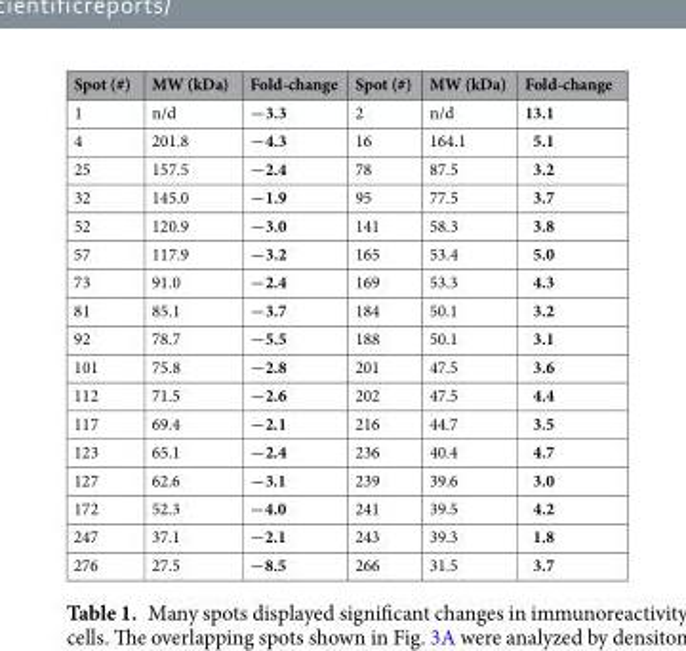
<table><thead><tr><td>Spot (#)</td><td>MW (kDa)</td><td>Fold-change</td><td>Spot (#)</td><td>MW (kDa)</td><td>Fold-change</td></tr></thead><tbody><tr><td>1</td><td>n/d</td><td>−3.3</td><td>2</td><td>n/d</td><td>13.1</td></tr><tr><td>4</td><td>201.8</td><td>−4.3</td><td>16</td><td>164.1</td><td>5.1</td></tr><tr><td>25</td><td>157.5</td><td>−2.4</td><td>78</td><td>87.5</td><td>3.2</td></tr><tr><td>32</td><td>145.0</td><td>−1.9</td><td>95</td><td>77.5</td><td>3.7</td></tr><tr><td>52</td><td>120.9</td><td>−3.0</td><td>141</td><td>58.3</td><td>3.8</td></tr><tr><td>57</td><td>117.9</td><td>−3.2</td><td>165</td><td>53.4</td><td>5.0</td></tr><tr><td>73</td><td>91.0</td><td>−2.4</td><td>169</td><td>53.3</td><td>4.3</td></tr><tr><td>81</td><td>85.1</td><td>−3.7</td><td>184</td><td>50.1</td><td>3.2</td></tr><tr><td>92</td><td>78.7</td><td>−5.5</td><td>188</td><td>50.1</td><td>3.1</td></tr><tr><td>101</td><td>75.8</td><td>−2.8</td><td>201</td><td>47.5</td><td>3.6</td></tr><tr><td>112</td><td>71.5</td><td>−2.6</td><td>202</td><td>47.5</td><td>4.4</td></tr><tr><td>117</td><td>69.4</td><td>−2.1</td><td>216</td><td>44.7</td><td>3.5</td></tr><tr><td>123</td><td>65.1</td><td>−2.4</td><td>236</td><td>40.4</td><td>4.7</td></tr><tr><td>127</td><td>62.6</td><td>−3.1</td><td>239</td><td>39.6</td><td>3.0</td></tr><tr><td>172</td><td>52.3</td><td>−4.0</td><td>241</td><td>39.5</td><td>4.2</td></tr><tr><td>247</td><td>37.1</td><td>−2.1</td><td>243</td><td>39.3</td><td>1.8</td></tr><tr><td>276</td><td>27.5</td><td>−8.5</td><td>266</td><td>31.5</td><td>3.7</td></tr></tbody></table>